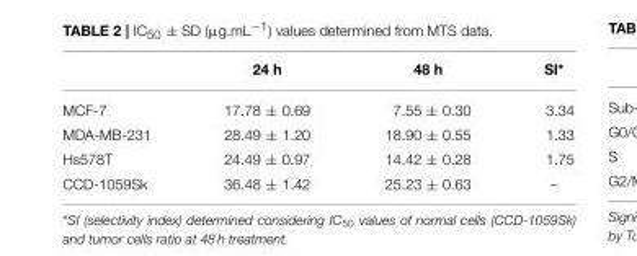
<table><thead><tr><td></td><td>24 h</td><td>48 h</td><td>SI*</td></tr></thead><tbody><tr><td>MCF-7</td><td>17.78 ± 0.69</td><td>7.55 ± 0.30</td><td>3.34</td></tr><tr><td>MDA-MB-231</td><td>28.49 ± 1.20</td><td>18.90 ± 0.55</td><td>1.33</td></tr><tr><td>Hs578T</td><td>24.49 ± 0.97</td><td>14.42 ± 0.28</td><td>1.75</td></tr><tr><td>CCD-1059Sk</td><td>36.48 ± 1.42</td><td>25.23 ± 0.63</td><td>–</td></tr></tbody></table>